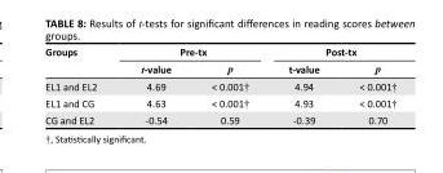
<table><thead><tr><td rowspan="2">Groups</td><td colspan="2">Pre-tx</td><td colspan="2">Post-tx</td></tr><tr><td>t-value</td><td>p</td><td>t-value</td><td>p</td></tr></thead><tbody><tr><td>EL1 and EL2</td><td>4.69</td><td>&lt; 0.001†</td><td>4.94</td><td>&lt; 0.001†</td></tr><tr><td>EL1 and CG</td><td>4.63</td><td>&lt; 0.001†</td><td>4.93</td><td>&lt; 0.001†</td></tr><tr><td>CG and EL2</td><td>-0.54</td><td>0.59</td><td>-0.39</td><td>0.70</td></tr></tbody></table>